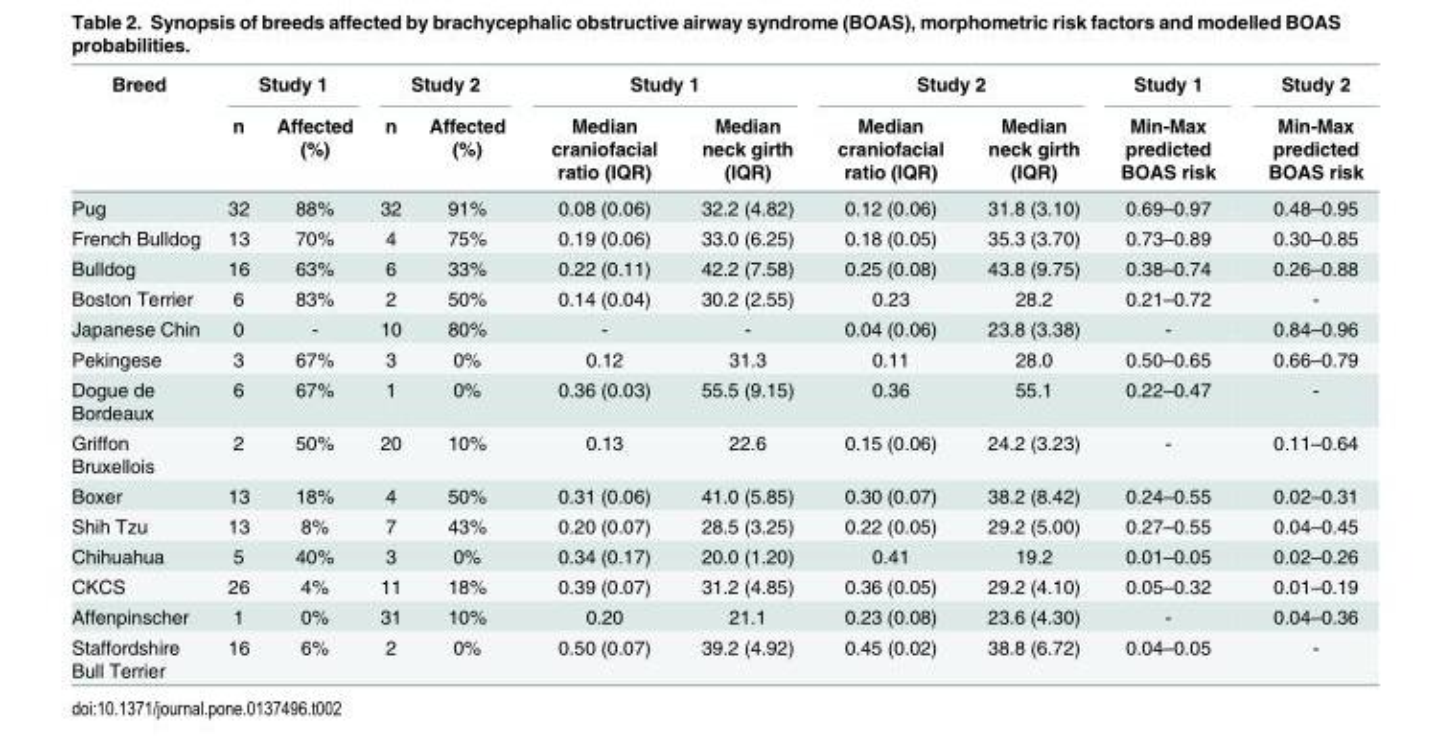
<table><thead><tr><td rowspan="2">Breed</td><td colspan="2">Study 1</td><td colspan="2">Study 2</td><td colspan="2">Study 1</td><td colspan="2">Study 2</td><td rowspan="2">Study 1 Min-Max predicted BOAS risk</td><td rowspan="2">Study 2 Min-Max predicted BOAS risk</td></tr><tr><td>n</td><td>Affected (%)</td><td>n</td><td>Affected (%)</td><td>Median craniofacial ratio (IQR)</td><td>Median neck girth (IQR)</td><td>Median craniofacial ratio (IQR)</td><td>Median neck girth (IQR)</td></tr></thead><tbody><tr><td>Pug</td><td>32</td><td>88%</td><td>32</td><td>91%</td><td>0.08 (0.06)</td><td>32.2 (4.82)</td><td>0.12 (0.06)</td><td>31.8 (3.10)</td><td>0.69–0.97</td><td>0.48–0.95</td></tr><tr><td>French Bulldog</td><td>13</td><td>70%</td><td>4</td><td>75%</td><td>0.19 (0.06)</td><td>33.0 (6.25)</td><td>0.18 (0.05)</td><td>35.3 (3.70)</td><td>0.73–0.89</td><td>0.30–0.85</td></tr><tr><td>Bulldog</td><td>16</td><td>63%</td><td>6</td><td>33%</td><td>0.22 (0.11)</td><td>42.2 (7.58)</td><td>0.25 (0.08)</td><td>43.8 (9.75)</td><td>0.38–0.74</td><td>0.26–0.88</td></tr><tr><td>Boston Terrier</td><td>6</td><td>83%</td><td>2</td><td>50%</td><td>0.14 (0.04)</td><td>30.2 (2.55)</td><td>0.23</td><td>28.2</td><td>0.21–0.72</td><td>-</td></tr><tr><td>Japanese Chin</td><td>0</td><td>-</td><td>10</td><td>80%</td><td>-</td><td>-</td><td>0.04 (0.06)</td><td>23.8 (3.38)</td><td>-</td><td>0.84–0.96</td></tr><tr><td>Pekingese</td><td>3</td><td>67%</td><td>3</td><td>0%</td><td>0.12</td><td>31.3</td><td>0.11</td><td>28.0</td><td>0.50–0.65</td><td>0.66–0.79</td></tr><tr><td>Dogue de Bordeaux</td><td>6</td><td>67%</td><td>1</td><td>0%</td><td>0.36 (0.03)</td><td>55.5 (9.15)</td><td>0.36</td><td>55.1</td><td>0.22–0.47</td><td>-</td></tr><tr><td>Griffon Bruxellois</td><td>2</td><td>50%</td><td>20</td><td>10%</td><td>0.13</td><td>22.6</td><td>0.15 (0.06)</td><td>24.2 (3.23)</td><td>-</td><td>0.11–0.64</td></tr><tr><td>Boxer</td><td>13</td><td>18%</td><td>4</td><td>50%</td><td>0.31 (0.06)</td><td>41.0 (5.85)</td><td>0.30 (0.07)</td><td>38.2 (8.42)</td><td>0.24–0.55</td><td>0.02–0.31</td></tr><tr><td>Shih Tzu</td><td>13</td><td>8%</td><td>7</td><td>43%</td><td>0.20 (0.07)</td><td>28.5 (3.25)</td><td>0.22 (0.05)</td><td>29.2 (5.00)</td><td>0.27–0.55</td><td>0.04–0.45</td></tr><tr><td>Chihuahua</td><td>5</td><td>40%</td><td>3</td><td>0%</td><td>0.34 (0.17)</td><td>20.0 (1.20)</td><td>0.41</td><td>19.2</td><td>0.01–0.05</td><td>0.02–0.26</td></tr><tr><td>CKCS</td><td>26</td><td>4%</td><td>11</td><td>18%</td><td>0.39 (0.07)</td><td>31.2 (4.85)</td><td>0.36 (0.05)</td><td>29.2 (4.10)</td><td>0.05–0.32</td><td>0.01–0.19</td></tr><tr><td>Affenpinscher</td><td>1</td><td>0%</td><td>31</td><td>10%</td><td>0.20</td><td>21.1</td><td>0.23 (0.08)</td><td>23.6 (4.30)</td><td>-</td><td>0.04–0.36</td></tr><tr><td>Staffordshire Bull Terrier</td><td>16</td><td>6%</td><td>2</td><td>0%</td><td>0.50 (0.07)</td><td>39.2 (4.92)</td><td>0.45 (0.02)</td><td>38.8 (6.72)</td><td>0.04–0.05</td><td>-</td></tr></tbody></table>